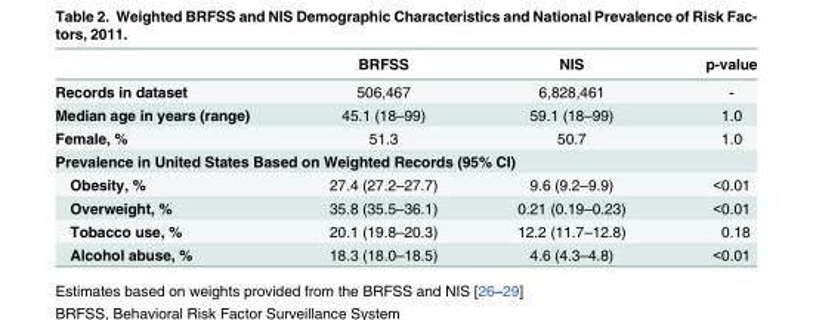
<table><thead><tr><td></td><td>BRFSS</td><td>NIS</td><td>p-value</td></tr></thead><tbody><tr><td>Records in dataset</td><td>506,467</td><td>6,828,461</td><td>-</td></tr><tr><td>Median age in years (range)</td><td>45.1 (18–99)</td><td>59.1 (18–99)</td><td>1.0</td></tr><tr><td>Female, %</td><td>51.3</td><td>50.7</td><td>1.0</td></tr><tr><td colspan="4">Prevalence in United States Based on Weighted Records (95% CI)</td></tr><tr><td>Obesity, %</td><td>27.4 (27.2–27.7)</td><td>9.6 (9.2–9.9)</td><td>&lt;0.01</td></tr><tr><td>Overweight, %</td><td>35.8 (35.5–36.1)</td><td>0.21 (0.19–0.23)</td><td>&lt;0.01</td></tr><tr><td>Tobacco use, %</td><td>20.1 (19.8–20.3)</td><td>12.2 (11.7–12.8)</td><td>0.18</td></tr><tr><td>Alcohol abuse, %</td><td>18.3 (18.0–18.5)</td><td>4.6 (4.3–4.8)</td><td>&lt;0.01</td></tr></tbody></table>